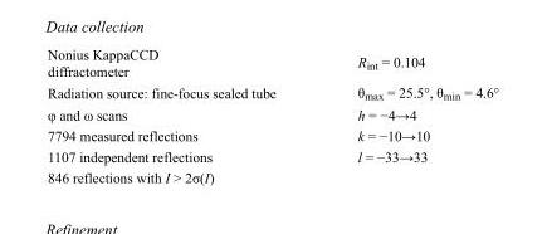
<table><tbody><tr><td>Nonius KappaCCD diffractometer</td><td>R<sub>int</sub> = 0.104</td></tr><tr><td>Radiation source: fine-focus sealed tube</td><td>θ<sub>max</sub> = 25.5°, θ<sub>min</sub> = 4.6°</td></tr><tr><td>φ and ω scans</td><td>h = −4→4</td></tr><tr><td>7794 measured reflections</td><td>k = −10→10</td></tr><tr><td>1107 independent reflections</td><td>l = −33→33</td></tr><tr><td>846 reflections with I &gt; 2σ(I)</td><td></td></tr></tbody></table>